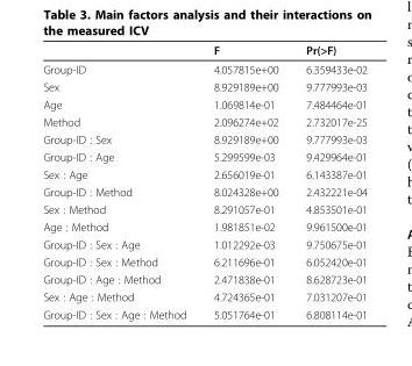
<table><thead><tr><td></td><td>F</td><td>Pr(&gt;F)</td></tr></thead><tbody><tr><td>Group-ID</td><td>4.057815e+00</td><td>6.359433e-02</td></tr><tr><td>Sex</td><td>8.929189e+00</td><td>9.777993e-03</td></tr><tr><td>Age</td><td>1.069814e-01</td><td>7.484464e-01</td></tr><tr><td>Method</td><td>2.096274e+02</td><td>2.732017e-25</td></tr><tr><td>Group-ID : Sex</td><td>8.929189e+00</td><td>9.777993e-03</td></tr><tr><td>Group-ID : Age</td><td>5.299599e-03</td><td>9.429964e-01</td></tr><tr><td>Sex : Age</td><td>2.656019e-01</td><td>6.143387e-01</td></tr><tr><td>Group-ID : Method</td><td>8.024328e+00</td><td>2.432221e-04</td></tr><tr><td>Sex : Method</td><td>8.291057e-01</td><td>4.853501e-01</td></tr><tr><td>Age : Method</td><td>1.981851e-02</td><td>9.961500e-01</td></tr><tr><td>Group-ID : Sex : Age</td><td>1.012292e-03</td><td>9.750675e-01</td></tr><tr><td>Group-ID : Sex : Method</td><td>6.211696e-01</td><td>6.052420e-01</td></tr><tr><td>Group-ID : Age : Method</td><td>2.471838e-01</td><td>8.628723e-01</td></tr><tr><td>Sex : Age : Method</td><td>4.724365e-01</td><td>7.031207e-01</td></tr><tr><td>Group-ID : Sex : Age : Method</td><td>5.051764e-01</td><td>6.808114e-01</td></tr></tbody></table>